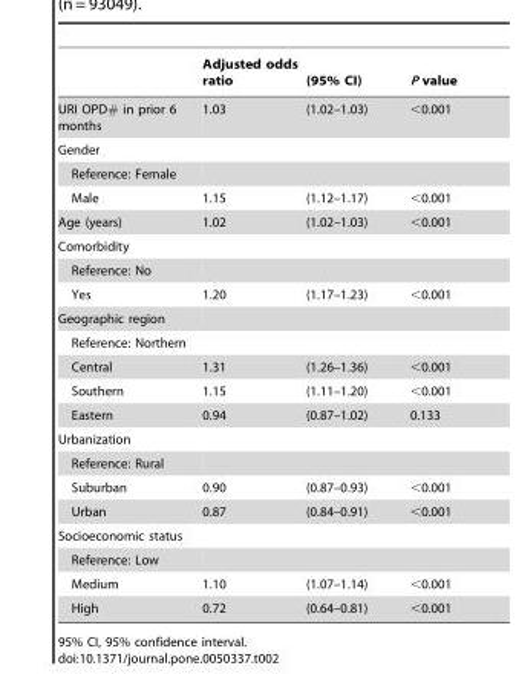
<table><thead><tr><td></td><td>Adjusted odds ratio</td><td>(95% CI)</td><td>P value</td></tr></thead><tbody><tr><td>URI OPD# in prior 6 months</td><td>1.03</td><td>(1.02–1.03)</td><td>&lt;0.001</td></tr><tr><td colspan="4">Gender</td></tr><tr><td colspan="4">Reference: Female</td></tr><tr><td>Male</td><td>1.15</td><td>(1.12–1.17)</td><td>&lt;0.001</td></tr><tr><td>Age (years)</td><td>1.02</td><td>(1.02–1.03)</td><td>&lt;0.001</td></tr><tr><td colspan="4">Comorbidity</td></tr><tr><td colspan="4">Reference: No</td></tr><tr><td>Yes</td><td>1.20</td><td>(1.17–1.23)</td><td>&lt;0.001</td></tr><tr><td colspan="4">Geographic region</td></tr><tr><td colspan="4">Reference: Northern</td></tr><tr><td>Central</td><td>1.31</td><td>(1.26–1.36)</td><td>&lt;0.001</td></tr><tr><td>Southern</td><td>1.15</td><td>(1.11–1.20)</td><td>&lt;0.001</td></tr><tr><td>Eastern</td><td>0.94</td><td>(0.87–1.02)</td><td>0.133</td></tr><tr><td colspan="4">Urbanization</td></tr><tr><td colspan="4">Reference: Rural</td></tr><tr><td>Suburban</td><td>0.90</td><td>(0.87–0.93)</td><td>&lt;0.001</td></tr><tr><td>Urban</td><td>0.87</td><td>(0.84–0.91)</td><td>&lt;0.001</td></tr><tr><td colspan="4">Socioeconomic status</td></tr><tr><td colspan="4">Reference: Low</td></tr><tr><td>Medium</td><td>1.10</td><td>(1.07–1.14)</td><td>&lt;0.001</td></tr><tr><td>High</td><td>0.72</td><td>(0.64–0.81)</td><td>&lt;0.001</td></tr></tbody></table>